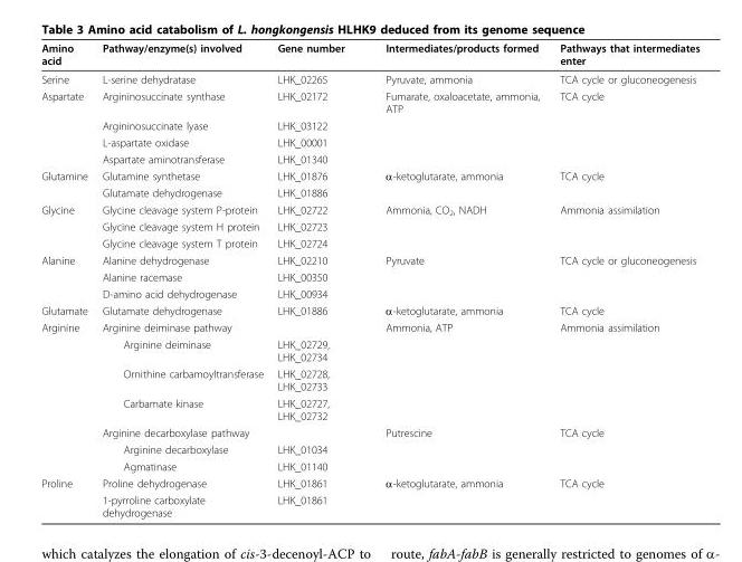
<table><thead><tr><td>Amino acid</td><td>Pathway/enzyme(s) involved</td><td>Gene number</td><td>Intermediates/products formed</td><td>Pathways that intermediates enter</td></tr></thead><tbody><tr><td>Serine</td><td>L-serine dehydratase</td><td>LHK_02265</td><td>Pyruvate, ammonia</td><td>TCA cycle or gluconeogenesis</td></tr><tr><td rowspan="4">Aspartate</td><td>Argininosuccinate synthase</td><td>LHK_02172</td><td>Fumarate, oxaloacetate, ammonia, ATP</td><td>TCA cycle</td></tr><tr><td>Argininosuccinate lyase</td><td>LHK_03122</td><td></td><td></td></tr><tr><td>L-aspartate oxidase</td><td>LHK_00001</td><td></td><td></td></tr><tr><td>Aspartate aminotransferase</td><td>LHK_01340</td><td></td><td></td></tr><tr><td rowspan="2">Glutamine</td><td>Glutamine synthetase</td><td>LHK_01876</td><td>α-ketoglutarate, ammonia</td><td>TCA cycle</td></tr><tr><td>Glutamate dehydrogenase</td><td>LHK_01886</td><td></td><td></td></tr><tr><td rowspan="3">Glycine</td><td>Glycine cleavage system P-protein</td><td>LHK_02722</td><td>Ammonia, CO<sub>2</sub>, NADH</td><td>Ammonia assimilation</td></tr><tr><td>Glycine cleavage system H protein</td><td>LHK_02723</td><td></td><td></td></tr><tr><td>Glycine cleavage system T protein</td><td>LHK_02724</td><td></td><td></td></tr><tr><td rowspan="3">Alanine</td><td>Alanine dehydrogenase</td><td>LHK_02210</td><td>Pyruvate</td><td>TCA cycle or gluconeogenesis</td></tr><tr><td>Alanine racemase</td><td>LHK_00350</td><td></td><td></td></tr><tr><td>D-amino acid dehydrogenase</td><td>LHK_00934</td><td></td><td></td></tr><tr><td>Glutamate</td><td>Glutamate dehydrogenase</td><td>LHK_01886</td><td>α-ketoglutarate, ammonia</td><td>TCA cycle</td></tr><tr><td rowspan="7">Arginine</td><td>Arginine deiminase pathway</td><td></td><td>Ammonia, ATP</td><td>Ammonia assimilation</td></tr><tr><td>Arginine deiminase</td><td>LHK_02729, LHK_02734</td><td></td><td></td></tr><tr><td>Ornithine carbamoyltransferase</td><td>LHK_02728, LHK_02733</td><td></td><td></td></tr><tr><td>Carbamate kinase</td><td>LHK_02727, LHK_02732</td><td></td><td></td></tr><tr><td>Arginine decarboxylase pathway</td><td></td><td>Putrescine</td><td>TCA cycle</td></tr><tr><td>Arginine decarboxylase</td><td>LHK_01034</td><td></td><td></td></tr><tr><td>Agmatinase</td><td>LHK_01140</td><td></td><td></td></tr><tr><td rowspan="2">Proline</td><td>Proline dehydrogenase</td><td>LHK_01861</td><td>α-ketoglutarate, ammonia</td><td>TCA cycle</td></tr><tr><td>1-pyrroline carboxylate dehydrogenase</td><td>LHK_01861</td><td></td><td></td></tr></tbody></table>